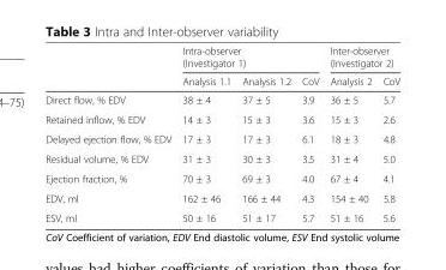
<table><thead><tr><td rowspan="2"></td><td colspan="3">Intra-observer (Investigator 1)</td><td colspan="2">Inter-observer (Investigator 2)</td></tr><tr><td>Analysis 1.1</td><td>Analysis 1.2</td><td>CoV</td><td>Analysis 2</td><td>CoV</td></tr></thead><tbody><tr><td>Direct flow, % EDV</td><td>38 ± 4</td><td>37 ± 5</td><td>3.9</td><td>36 ± 5</td><td>5.7</td></tr><tr><td>Retained inflow, % EDV</td><td>14 ± 3</td><td>15 ± 3</td><td>3.6</td><td>15 ± 3</td><td>2.6</td></tr><tr><td>Delayed ejection flow, % EDV</td><td>17 ± 3</td><td>17 ± 3</td><td>6.1</td><td>18 ± 3</td><td>4.8</td></tr><tr><td>Residual volume, % EDV</td><td>31 ± 3</td><td>30 ± 3</td><td>3.5</td><td>31 ± 4</td><td>5.0</td></tr><tr><td>Ejection fraction, %</td><td>70 ± 3</td><td>69 ± 3</td><td>4.0</td><td>67 ± 4</td><td>4.1</td></tr><tr><td>EDV, ml</td><td>162 ± 46</td><td>166 ± 44</td><td>4.3</td><td>154 ± 40</td><td>5.8</td></tr><tr><td>ESV, ml</td><td>50 ± 16</td><td>51 ± 17</td><td>5.7</td><td>51 ± 16</td><td>5.6</td></tr></tbody></table>